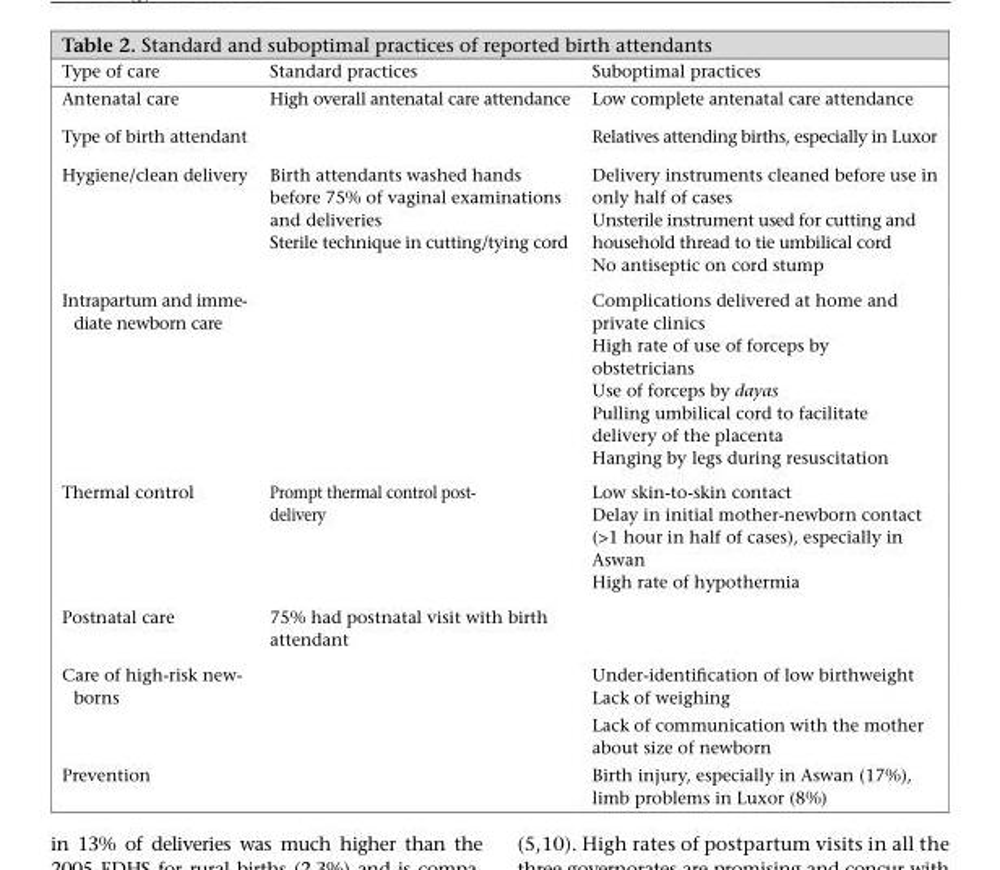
<table><thead><tr><td>Type of care</td><td>Standard practices</td><td>Suboptimal practices</td></tr></thead><tbody><tr><td>Antenatal care</td><td>High overall antenatal care attendance</td><td>Low complete antenatal care attendance</td></tr><tr><td>Type of birth attendant</td><td></td><td>Relatives attending births, especially in Luxor</td></tr><tr><td>Hygiene/clean delivery</td><td>Birth attendants washed hands before 75% of vaginal examinations and deliveries Sterile technique in cutting/tying cord</td><td>Delivery instruments cleaned before use in only half of cases Unsterile instrument used for cutting and household thread to tie umbilical cord No antiseptic on cord stump</td></tr><tr><td>Intrapartum and imme- diate newborn care</td><td></td><td>Complications delivered at home and private clinics High rate of use of forceps by obstetricians Use of forceps by dayas Pulling umbilical cord to facilitate delivery of the placenta Hanging by legs during resuscitation</td></tr><tr><td>Thermal control</td><td>Prompt thermal control post- delivery</td><td>Low skin-to-skin contact Delay in initial mother-newborn contact (&gt;1 hour in half of cases), especially in Aswan High rate of hypothermia</td></tr><tr><td>Postnatal care</td><td>75% had postnatal visit with birth attendant</td><td></td></tr><tr><td rowspan="2">Care of high-risk new- borns</td><td></td><td>Under-identification of low birthweight Lack of weighing</td></tr><tr><td></td><td>Lack of communication with the mother about size of newborn</td></tr><tr><td>Prevention</td><td></td><td>Birth injury, especially in Aswan (17%), limb problems in Luxor (8%)</td></tr></tbody></table>